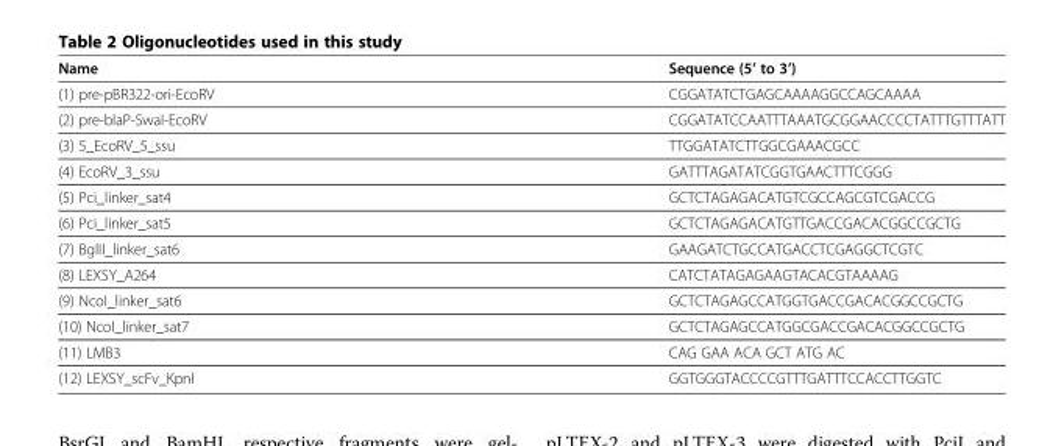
<table><thead><tr><td>Name</td><td>Sequence (5’ to 3’)</td></tr></thead><tbody><tr><td>(1) pre-pBR322-ori-EcoRV</td><td>CGGATATCTGAGCAAAAGGCCAGCAAAA</td></tr><tr><td>(2) pre-blaP-SwaI-EcoRV</td><td>CGGATATCCAATTTAAATGCGGAACCCCTATTTGTTTATT</td></tr><tr><td>(3) 5_EcoRV_5_ssu</td><td>TTGGATATCTTGGCGAAACGCC</td></tr><tr><td>(4) EcoRV_3_ssu</td><td>GATTTAGATATCGGTGAACTTTCGGG</td></tr><tr><td>(5) Pci_linker_sat4</td><td>GCTCTAGAGACATGTCGCCAGCGTCGACCG</td></tr><tr><td>(6) Pci_linker_sat5</td><td>GCTCTAGAGACATGTTGACCGACACGGCCGCTG</td></tr><tr><td>(7) BglII_linker_sat6</td><td>GAAGATCTGCCATGACCTCGAGGCTCGTC</td></tr><tr><td>(8) LEXSY_A264</td><td>CATCTATAGAGAAGTACACGTAAAAG</td></tr><tr><td>(9) NcoI_linker_sat6</td><td>GCTCTAGAGCCATGGTGACCGACACGGCCGCTG</td></tr><tr><td>(10) NcoI_linker_sat7</td><td>GCTCTAGAGCCATGGCGACCGACACGGCCGCTG</td></tr><tr><td>(11) LMB3</td><td>CAG GAA ACA GCT ATG AC</td></tr><tr><td>(12) LEXSY_scFv_KpnI</td><td>GGTGGGTACCCCGTTTGATTTCCACCTTGGTC</td></tr></tbody></table>